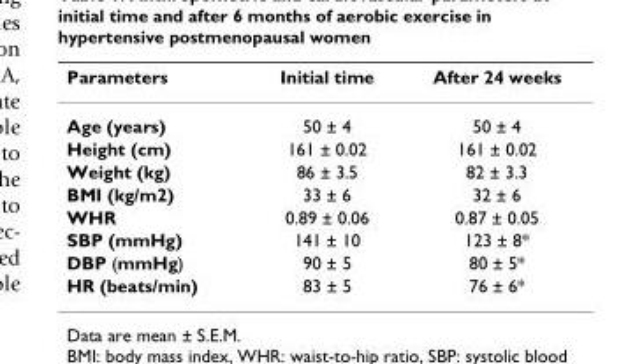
<table><thead><tr><td>Parameters</td><td>Initial time</td><td>After 24 weeks</td></tr></thead><tbody><tr><td>Age (years)</td><td>50 ± 4</td><td>50 ± 4</td></tr><tr><td>Height (cm)</td><td>161 ± 0.02</td><td>161 ± 0.02</td></tr><tr><td>Weight (kg)</td><td>86 ± 3.5</td><td>82 ± 3.3</td></tr><tr><td>BMI (kg/m2)</td><td>33 ± 6</td><td>32 ± 6</td></tr><tr><td>WHR</td><td>0.89 ± 0.06</td><td>0.87 ± 0.05</td></tr><tr><td>SBP (mmHg)</td><td>141 ± 10</td><td>123 ± 8*</td></tr><tr><td>DBP (mmHg)</td><td>90 ± 5</td><td>80 ± 5*</td></tr><tr><td>HR (beats/min)</td><td>83 ± 5</td><td>76 ± 6*</td></tr></tbody></table>